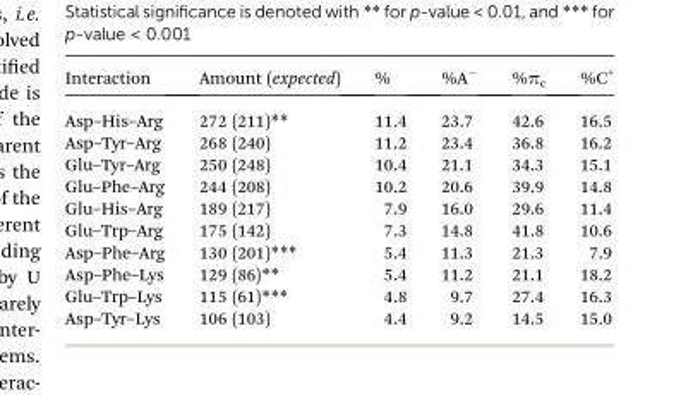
<table><thead><tr><td>Interaction</td><td>Amount (expected)</td><td>%</td><td>%A<sup>–</sup></td><td>%π<sub>c</sub></td><td>%C<sup>+</sup></td></tr></thead><tbody><tr><td>Asp–His–Arg</td><td>272 (211)**</td><td>11.4</td><td>23.7</td><td>42.6</td><td>16.5</td></tr><tr><td>Asp–Tyr–Arg</td><td>268 (240)</td><td>11.2</td><td>23.4</td><td>36.8</td><td>16.2</td></tr><tr><td>Glu–Tyr–Arg</td><td>250 (248)</td><td>10.4</td><td>21.1</td><td>34.3</td><td>15.1</td></tr><tr><td>Glu–Phe–Arg</td><td>244 (208)</td><td>10.2</td><td>20.6</td><td>39.9</td><td>14.8</td></tr><tr><td>Glu–His–Arg</td><td>189 (217)</td><td>7.9</td><td>16.0</td><td>29.6</td><td>11.4</td></tr><tr><td>Glu–Trp–Arg</td><td>175 (142)</td><td>7.3</td><td>14.8</td><td>41.8</td><td>10.6</td></tr><tr><td>Asp–Phe–Arg</td><td>130 (201)***</td><td>5.4</td><td>11.3</td><td>21.3</td><td>7.9</td></tr><tr><td>Asp–Phe–Lys</td><td>129 (86)**</td><td>5.4</td><td>11.2</td><td>21.1</td><td>18.2</td></tr><tr><td>Glu–Trp–Lys</td><td>115 (61)***</td><td>4.8</td><td>9.7</td><td>27.4</td><td>16.3</td></tr><tr><td>Asp–Tyr–Lys</td><td>106 (103)</td><td>4.4</td><td>9.2</td><td>14.5</td><td>15.0</td></tr></tbody></table>